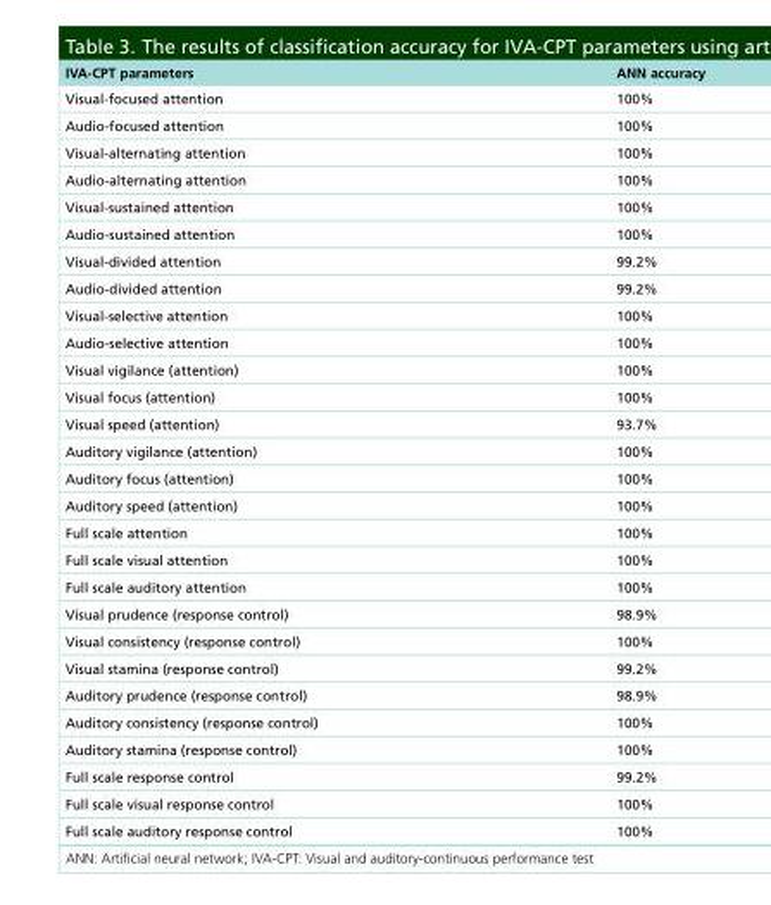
<table><thead><tr><td>IVA-CPT parameters</td><td>ANN accuracy</td></tr></thead><tbody><tr><td>Visual-focused attention</td><td>100%</td></tr><tr><td>Audio-focused attention</td><td>100%</td></tr><tr><td>Visual-alternating attention</td><td>100%</td></tr><tr><td>Audio-alternating attention</td><td>100%</td></tr><tr><td>Visual-sustained attention</td><td>100%</td></tr><tr><td>Audio-sustained attention</td><td>100%</td></tr><tr><td>Visual-divided attention</td><td>99.2%</td></tr><tr><td>Audio-divided attention</td><td>99.2%</td></tr><tr><td>Visual-selective attention</td><td>100%</td></tr><tr><td>Audio-selective attention</td><td>100%</td></tr><tr><td>Visual vigilance (attention)</td><td>100%</td></tr><tr><td>Visual focus (attention)</td><td>100%</td></tr><tr><td>Visual speed (attention)</td><td>93.7%</td></tr><tr><td>Auditory vigilance (attention)</td><td>100%</td></tr><tr><td>Auditory focus (attention)</td><td>100%</td></tr><tr><td>Auditory speed (attention)</td><td>100%</td></tr><tr><td>Full scale attention</td><td>100%</td></tr><tr><td>Full scale visual attention</td><td>100%</td></tr><tr><td>Full scale auditory attention</td><td>100%</td></tr><tr><td>Visual prudence (response control)</td><td>98.9%</td></tr><tr><td>Visual consistency (response control)</td><td>100%</td></tr><tr><td>Visual stamina (response control)</td><td>99.2%</td></tr><tr><td>Auditory prudence (response control)</td><td>98.9%</td></tr><tr><td>Auditory consistency (response control)</td><td>100%</td></tr><tr><td>Auditory stamina (response control)</td><td>100%</td></tr><tr><td>Full scale response control</td><td>99.2%</td></tr><tr><td>Full scale visual response control</td><td>100%</td></tr><tr><td>Full scale auditory response control</td><td>100%</td></tr></tbody></table>